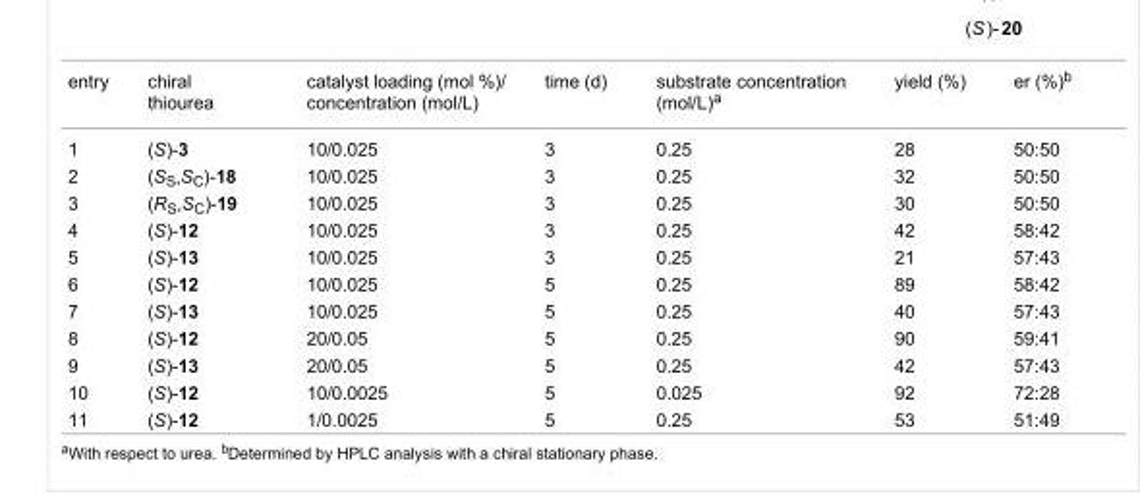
<table><tbody><tr><td>entry</td><td>chiral thiourea</td><td>catalyst loading (mol %)/ concentration (mol/L)</td><td>time (d)</td><td>substrate concentration (mol/L)<sup>a</sup></td><td>yield (%)</td><td>er (%)<sup>b</sup></td></tr><tr><td>1</td><td>(S)-3</td><td>10/0.025</td><td>3</td><td>0.25</td><td>28</td><td>50:50</td></tr><tr><td>2</td><td>(S<sub>S</sub>,S<sub>C</sub>)-18</td><td>10/0.025</td><td>3</td><td>0.25</td><td>32</td><td>50:50</td></tr><tr><td>3</td><td>(R<sub>S</sub>,S<sub>C</sub>)-19</td><td>10/0.025</td><td>3</td><td>0.25</td><td>30</td><td>50:50</td></tr><tr><td>4</td><td>(S)-12</td><td>10/0.025</td><td>3</td><td>0.25</td><td>42</td><td>58:42</td></tr><tr><td>5</td><td>(S)-13</td><td>10/0.025</td><td>3</td><td>0.25</td><td>21</td><td>57:43</td></tr><tr><td>6</td><td>(S)-12</td><td>10/0.025</td><td>5</td><td>0.25</td><td>89</td><td>58:42</td></tr><tr><td>7</td><td>(S)-13</td><td>10/0.025</td><td>5</td><td>0.25</td><td>40</td><td>57:43</td></tr><tr><td>8</td><td>(S)-12</td><td>20/0.05</td><td>5</td><td>0.25</td><td>90</td><td>59:41</td></tr><tr><td>9</td><td>(S)-13</td><td>20/0.05</td><td>5</td><td>0.25</td><td>42</td><td>57:43</td></tr><tr><td>10</td><td>(S)-12</td><td>10/0.0025</td><td>5</td><td>0.025</td><td>92</td><td>72:28</td></tr><tr><td>11</td><td>(S)-12</td><td>1/0.0025</td><td>5</td><td>0.25</td><td>53</td><td>51:49</td></tr></tbody></table>